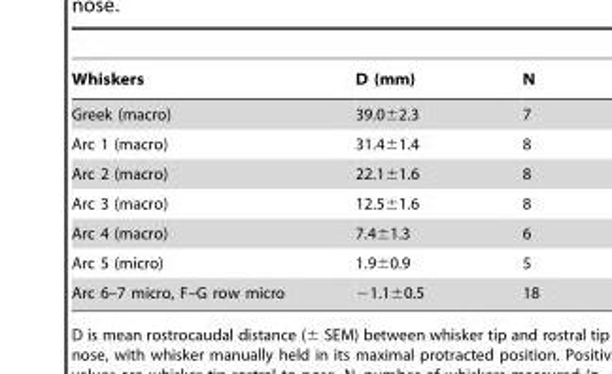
<table><thead><tr><td>Whiskers</td><td>D (mm)</td><td>N</td></tr></thead><tbody><tr><td>Greek (macro)</td><td>39.0±2.3</td><td>7</td></tr><tr><td>Arc 1 (macro)</td><td>31.4±1.4</td><td>8</td></tr><tr><td>Arc 2 (macro)</td><td>22.1±1.6</td><td>8</td></tr><tr><td>Arc 3 (macro)</td><td>12.5±1.6</td><td>8</td></tr><tr><td>Arc 4 (macro)</td><td>7.4±1.3</td><td>6</td></tr><tr><td>Arc 5 (micro)</td><td>1.9±0.9</td><td>5</td></tr><tr><td>Arc 6–7 micro, F–G row micro</td><td>−1.1±0.5</td><td>18</td></tr></tbody></table>